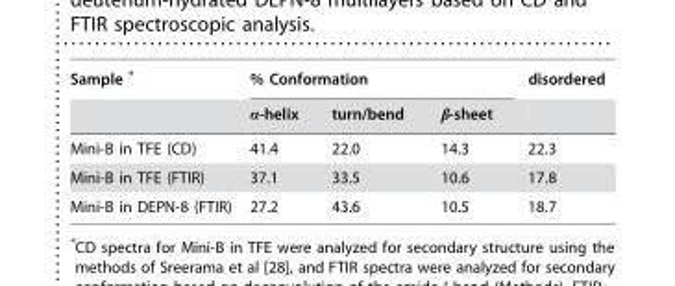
<table><thead><tr><td rowspan="2">Sample *</td><td colspan="3">% Conformation</td><td rowspan="2">disordered</td></tr><tr><td>α-helix</td><td>turn/bend</td><td>β-sheet</td></tr></thead><tbody><tr><td>Mini-B in TFE (CD)</td><td>41.4</td><td>22.0</td><td>14.3</td><td>22.3</td></tr><tr><td>Mini-B in TFE (FTIR)</td><td>37.1</td><td>33.5</td><td>10.6</td><td>17.8</td></tr><tr><td>Mini-B in DEPN-8 (FTIR)</td><td>27.2</td><td>43.6</td><td>10.5</td><td>18.7</td></tr></tbody></table>